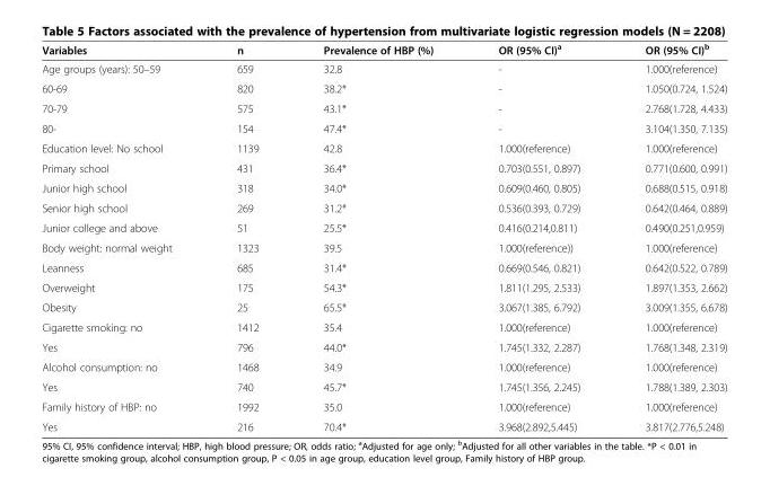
<table><thead><tr><td>Variables</td><td>n</td><td>Prevalence of HBP (%)</td><td>OR (95% CI)<sup>a</sup></td><td>OR (95% CI)<sup>b</sup></td></tr></thead><tbody><tr><td>Age groups (years): 50–59</td><td>659</td><td>32.8</td><td>-</td><td>1.000(reference)</td></tr><tr><td>60-69</td><td>820</td><td>38.2*</td><td>-</td><td>1.050(0.724, 1.524)</td></tr><tr><td>70-79</td><td>575</td><td>43.1*</td><td>-</td><td>2.768(1.728, 4.433)</td></tr><tr><td>80-</td><td>154</td><td>47.4*</td><td>-</td><td>3.104(1.350, 7.135)</td></tr><tr><td>Education level: No school</td><td>1139</td><td>42.8</td><td>1.000(reference)</td><td>1.000(reference)</td></tr><tr><td>Primary school</td><td>431</td><td>36.4*</td><td>0.703(0.551, 0.897)</td><td>0.771(0.600, 0.991)</td></tr><tr><td>Junior high school</td><td>318</td><td>34.0*</td><td>0.609(0.460, 0.805)</td><td>0.688(0.515, 0.918)</td></tr><tr><td>Senior high school</td><td>269</td><td>31.2*</td><td>0.536(0.393, 0.729)</td><td>0.642(0.464, 0.889)</td></tr><tr><td>Junior college and above</td><td>51</td><td>25.5*</td><td>0.416(0.214,0.811)</td><td>0.490(0.251,0.959)</td></tr><tr><td>Body weight: normal weight</td><td>1323</td><td>39.5</td><td>1.000(reference))</td><td>1.000(reference)</td></tr><tr><td>Leanness</td><td>685</td><td>31.4*</td><td>0.669(0.546, 0.821)</td><td>0.642(0.522, 0.789)</td></tr><tr><td>Overweight</td><td>175</td><td>54.3*</td><td>1.811(1.295, 2.533)</td><td>1.897(1.353, 2.662)</td></tr><tr><td>Obesity</td><td>25</td><td>65.5*</td><td>3.067(1.385, 6.792)</td><td>3.009(1.355, 6.678)</td></tr><tr><td>Cigarette smoking: no</td><td>1412</td><td>35.4</td><td>1.000(reference)</td><td>1.000(reference)</td></tr><tr><td>Yes</td><td>796</td><td>44.0*</td><td>1.745(1.332, 2.287)</td><td>1.768(1.348, 2.319)</td></tr><tr><td>Alcohol consumption: no</td><td>1468</td><td>34.9</td><td>1.000(reference)</td><td>1.000(reference)</td></tr><tr><td>Yes</td><td>740</td><td>45.7*</td><td>1.745(1.356, 2.245)</td><td>1.788(1.389, 2.303)</td></tr><tr><td>Family history of HBP: no</td><td>1992</td><td>35.0</td><td>1.000(reference)</td><td>1.000(reference)</td></tr><tr><td>Yes</td><td>216</td><td>70.4*</td><td>3.968(2.892,5.445)</td><td>3.817(2.776,5.248)</td></tr></tbody></table>